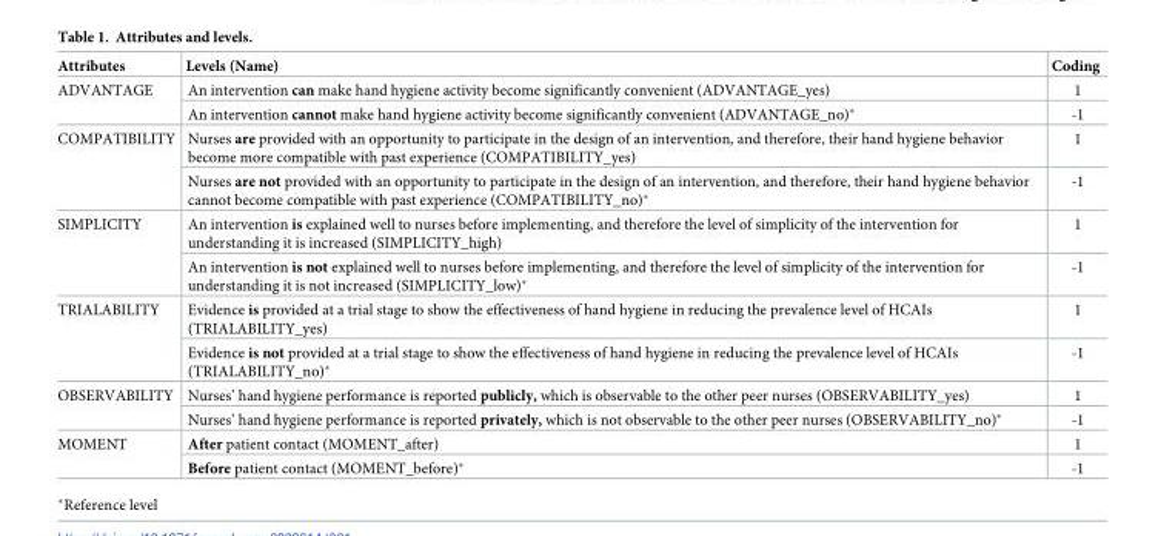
<table><thead><tr><td>Attributes</td><td>Levels (Name)</td><td>Coding</td></tr></thead><tbody><tr><td rowspan="2">ADVANTAGE</td><td>An intervention can make hand hygiene activity become significantly convenient (ADVANTAGE_yes)</td><td>1</td></tr><tr><td>An intervention cannot make hand hygiene activity become significantly convenient (ADVANTAGE_no)*</td><td>-1</td></tr><tr><td rowspan="2">COMPATIBILITY</td><td>Nurses are provided with an opportunity to participate in the design of an intervention, and therefore, their hand hygiene behavior become more compatible with past experience (COMPATIBILITY_yes)</td><td>1</td></tr><tr><td>Nurses are not provided with an opportunity to participate in the design of an intervention, and therefore, their hand hygiene behavior cannot become compatible with past experience (COMPATIBILITY_no)*</td><td>-1</td></tr><tr><td rowspan="2">SIMPLICITY</td><td>An intervention is explained well to nurses before implementing, and therefore the level of simplicity of the intervention for understanding it is increased (SIMPLICITY_high)</td><td>1</td></tr><tr><td>An intervention is not explained well to nurses before implementing, and therefore the level of simplicity of the intervention for understanding it is not increased (SIMPLICITY_low)*</td><td>-1</td></tr><tr><td rowspan="2">TRIALABILITY</td><td>Evidence is provided at a trial stage to show the effectiveness of hand hygiene in reducing the prevalence level of HCAIs (TRIALABILITY_yes)</td><td>1</td></tr><tr><td>Evidence is not provided at a trial stage to show the effectiveness of hand hygiene in reducing the prevalence level of HCAIs (TRIALABILITY_no)*</td><td>-1</td></tr><tr><td rowspan="2">OBSERVABILITY</td><td>Nurses’ hand hygiene performance is reported publicly, which is observable to the other peer nurses (OBSERVABILITY_yes)</td><td>1</td></tr><tr><td>Nurses’ hand hygiene performance is reported privately, which is not observable to the other peer nurses (OBSERVABILITY_no)*</td><td>-1</td></tr><tr><td rowspan="2">MOMENT</td><td>After patient contact (MOMENT_after)</td><td>1</td></tr><tr><td>Before patient contact (MOMENT_before)*</td><td>-1</td></tr></tbody></table>